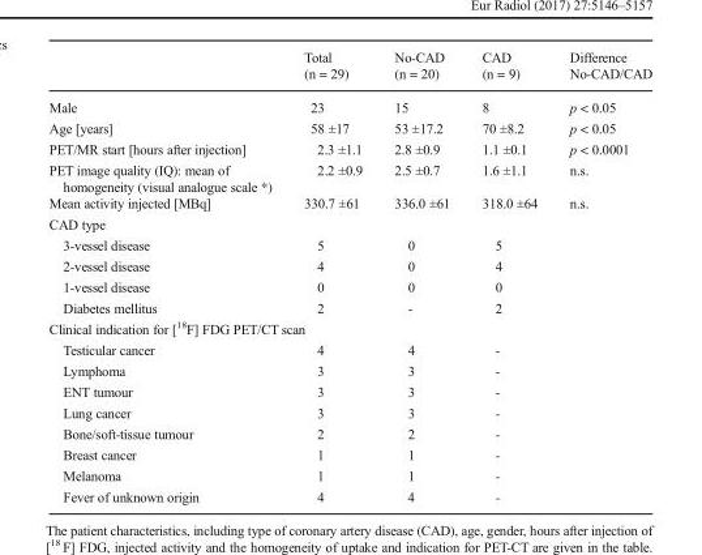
<table><thead><tr><td></td><td>Total (n = 29)</td><td>No-CAD (n = 20)</td><td>CAD (n = 9)</td><td>Difference No-CAD/CAD</td></tr></thead><tbody><tr><td>Male</td><td>23</td><td>15</td><td>8</td><td>p &lt; 0.05</td></tr><tr><td>Age [years]</td><td>58 ±17</td><td>53 ±17.2</td><td>70 ±8.2</td><td>p &lt; 0.05</td></tr><tr><td>PET/MR start [hours after injection]</td><td>2.3 ±1.1</td><td>2.8 ±0.9</td><td>1.1 ±0.1</td><td>p &lt; 0.0001</td></tr><tr><td>PET image quality (IQ): mean of homogeneity (visual analogue scale *)</td><td>2.2 ±0.9</td><td>2.5 ±0.7</td><td>1.6 ±1.1</td><td>n.s.</td></tr><tr><td>Mean activity injected [MBq]</td><td>330.7 ±61</td><td>336.0 ±61</td><td>318.0 ±64</td><td>n.s.</td></tr><tr><td colspan="5">CAD type</td></tr><tr><td>3-vessel disease</td><td>5</td><td>0</td><td>5</td><td></td></tr><tr><td>2-vessel disease</td><td>4</td><td>0</td><td>4</td><td></td></tr><tr><td>1-vessel disease</td><td>0</td><td>0</td><td>0</td><td></td></tr><tr><td>Diabetes mellitus</td><td>2</td><td>-</td><td>2</td><td></td></tr><tr><td colspan="5">Clinical indication for [<sup>18</sup>F] FDG PET/CT scan</td></tr><tr><td>Testicular cancer</td><td>4</td><td>4</td><td>-</td><td></td></tr><tr><td>Lymphoma</td><td>3</td><td>3</td><td>-</td><td></td></tr><tr><td>ENT tumour</td><td>3</td><td>3</td><td>-</td><td></td></tr><tr><td>Lung cancer</td><td>3</td><td>3</td><td>-</td><td></td></tr><tr><td>Bone/soft-tissue tumour</td><td>2</td><td>2</td><td>-</td><td></td></tr><tr><td>Breast cancer</td><td>1</td><td>1</td><td>-</td><td></td></tr><tr><td>Melanoma</td><td>1</td><td>1</td><td>-</td><td></td></tr><tr><td>Fever of unknown origin</td><td>4</td><td>4</td><td>-</td><td></td></tr></tbody></table>